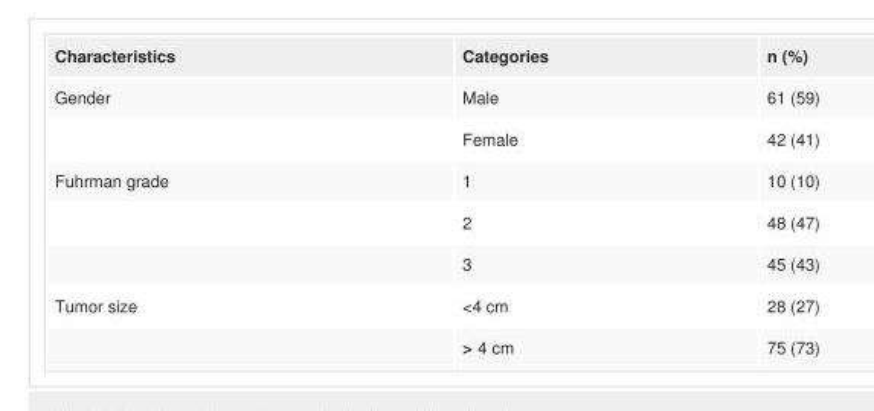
<table><tbody><tr><td>Characteristics</td><td>Categories</td><td>n (%)</td></tr><tr><td rowspan="2">Gender</td><td>Male</td><td>61 (59)</td></tr><tr><td>Female</td><td>42 (41)</td></tr><tr><td rowspan="3">Fuhrman grade</td><td>1</td><td>10 (10)</td></tr><tr><td>2</td><td>48 (47)</td></tr><tr><td>3</td><td>45 (43)</td></tr><tr><td rowspan="2">Tumor size</td><td>&lt;4 cm</td><td>28 (27)</td></tr><tr><td>&gt; 4 cm</td><td>75 (73)</td></tr></tbody></table>